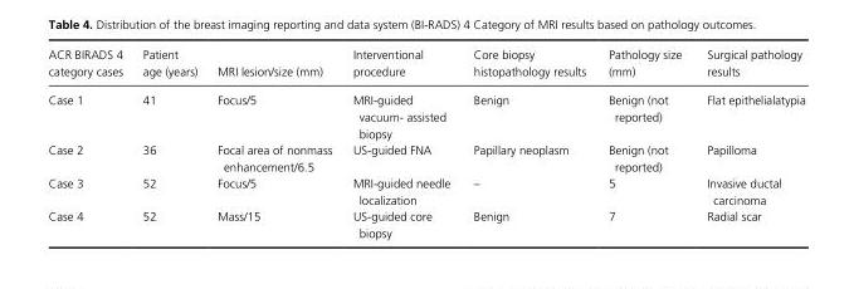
<table><thead><tr><td>ACR BIRADS 4 category cases</td><td>Patient age (years)</td><td>MRI lesion/size (mm)</td><td>Interventional procedure</td><td>Core biopsy histopathology results</td><td>Pathology size (mm)</td><td>Surgical pathology results</td></tr></thead><tbody><tr><td>Case 1</td><td>41</td><td>Focus/5</td><td>MRI- guided vacuum- assisted biopsy</td><td>Benign</td><td>Benign (not reported)</td><td>Flat epithelialatypia</td></tr><tr><td>Case 2</td><td>36</td><td>Focal area of nonmass enhancement/6.5</td><td>US- guided FNA</td><td>Papillary neoplasm</td><td>Benign (not reported)</td><td>Papilloma</td></tr><tr><td>Case 3</td><td>52</td><td>Focus/5</td><td>MRI- guided needle localization</td><td>–</td><td>5</td><td>Invasive ductal carcinoma</td></tr><tr><td>Case 4</td><td>52</td><td>Mass/15</td><td>US- guided core biopsy</td><td>Benign</td><td>7</td><td>Radial scar</td></tr></tbody></table>